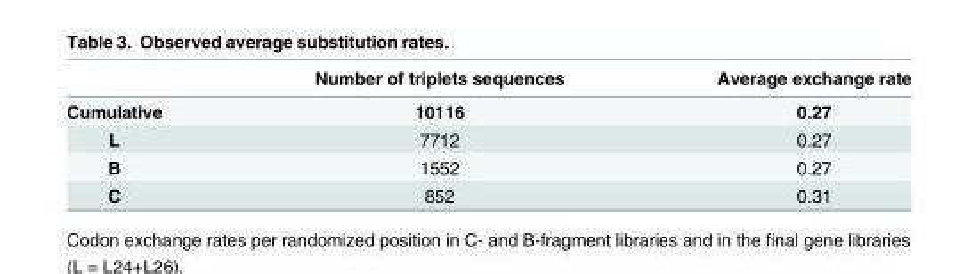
<table><thead><tr><td></td><td>Number of triplets sequences</td><td>Average exchange rate</td></tr></thead><tbody><tr><td>Cumulative</td><td>10116</td><td>0.27</td></tr><tr><td>L</td><td>7712</td><td>0.27</td></tr><tr><td>B</td><td>1552</td><td>0.27</td></tr><tr><td>C</td><td>852</td><td>0.31</td></tr></tbody></table>